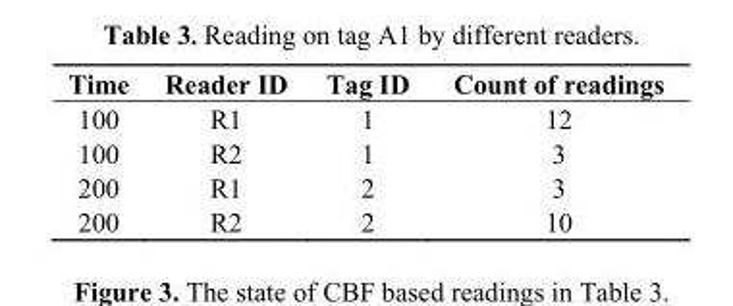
<table><thead><tr><td>Time</td><td>Reader ID</td><td>Tag ID</td><td>Count of readings</td></tr></thead><tbody><tr><td>100</td><td>R1</td><td>1</td><td>12</td></tr><tr><td>100</td><td>R2</td><td>1</td><td>3</td></tr><tr><td>200</td><td>R1</td><td>2</td><td>3</td></tr><tr><td>200</td><td>R2</td><td>2</td><td>10</td></tr></tbody></table>